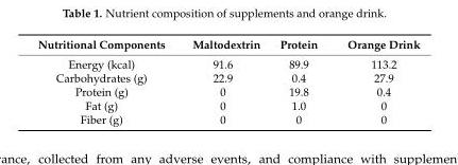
<table><thead><tr><td>Nutritional Components</td><td>Maltodextrin</td><td>Protein</td><td>Orange Drink</td></tr></thead><tbody><tr><td>Energy (kcal)</td><td>91.6</td><td>89.9</td><td>113.2</td></tr><tr><td>Carbohydrates (g)</td><td>22.9</td><td>0.4</td><td>27.9</td></tr><tr><td>Protein (g)</td><td>0</td><td>19.8</td><td>0.4</td></tr><tr><td>Fat (g)</td><td>0</td><td>1.0</td><td>0</td></tr><tr><td>Fiber (g)</td><td>0</td><td>0</td><td>0</td></tr></tbody></table>